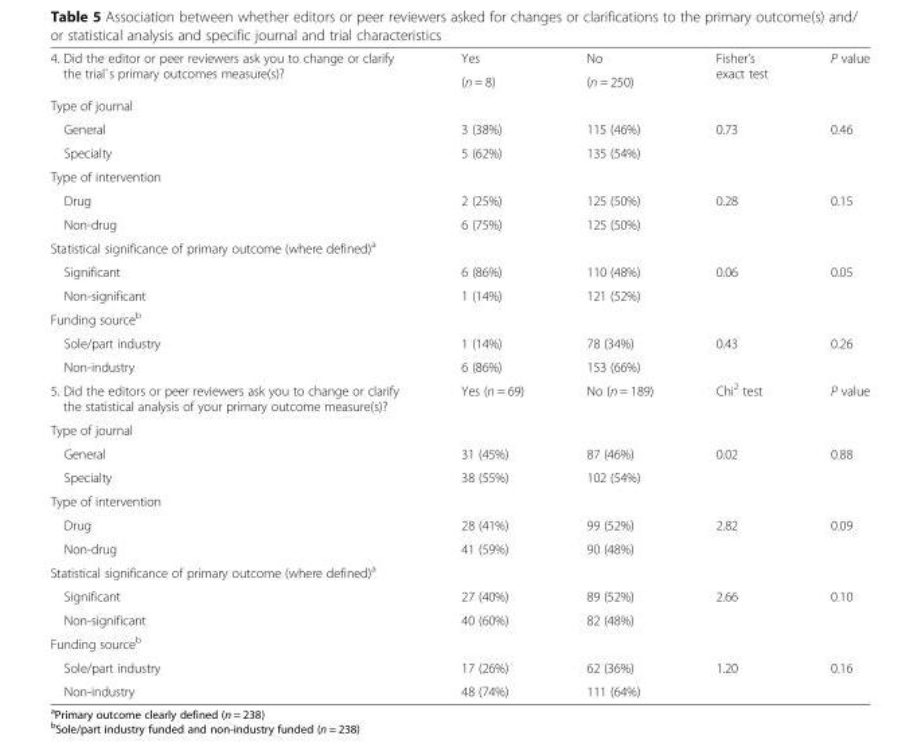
<table><tbody><tr><td rowspan="2">4. Did the editor or peer reviewers ask you to change or clarify the trial`s primary outcomes measure(s)?</td><td>Yes</td><td>No</td><td rowspan="2">Fisher’s exact test</td><td rowspan="2">P value</td></tr><tr><td>(n = 8)</td><td>(n = 250)</td></tr><tr><td colspan="5">Type of journal</td></tr><tr><td>General</td><td>3 (38%)</td><td>115 (46%)</td><td rowspan="2">0.73</td><td rowspan="2">0.46</td></tr><tr><td>Specialty</td><td>5 (62%)</td><td>135 (54%)</td></tr><tr><td colspan="5">Type of intervention</td></tr><tr><td>Drug</td><td>2 (25%)</td><td>125 (50%)</td><td rowspan="2">0.28</td><td rowspan="2">0.15</td></tr><tr><td>Non-drug</td><td>6 (75%)</td><td>125 (50%)</td></tr><tr><td colspan="5">Statistical significance of primary outcome (where defined)<sup>a</sup></td></tr><tr><td>Significant</td><td>6 (86%)</td><td>110 (48%)</td><td rowspan="2">0.06</td><td rowspan="2">0.05</td></tr><tr><td>Non-significant</td><td>1 (14%)</td><td>121 (52%)</td></tr><tr><td colspan="5">Funding source<sup>b</sup></td></tr><tr><td>Sole/part industry</td><td>1 (14%)</td><td>78 (34%)</td><td rowspan="2">0.43</td><td rowspan="2">0.26</td></tr><tr><td>Non-industry</td><td>6 (86%)</td><td>153 (66%)</td></tr><tr><td>5. Did the editors or peer reviewers ask you to change or clarify the statistical analysis of your primary outcome measure(s)?</td><td>Yes (n = 69)</td><td>No (n = 189)</td><td>Chi<sup>2</sup> test</td><td>P value</td></tr><tr><td colspan="5">Type of journal</td></tr><tr><td>General</td><td>31 (45%)</td><td>87 (46%)</td><td rowspan="2">0.02</td><td rowspan="2">0.88</td></tr><tr><td>Specialty</td><td>38 (55%)</td><td>102 (54%)</td></tr><tr><td colspan="5">Type of intervention</td></tr><tr><td>Drug</td><td>28 (41%)</td><td>99 (52%)</td><td rowspan="2">2.82</td><td rowspan="2">0.09</td></tr><tr><td>Non-drug</td><td>41 (59%)</td><td>90 (48%)</td></tr><tr><td colspan="5">Statistical significance of primary outcome (where defined)<sup>a</sup></td></tr><tr><td>Significant</td><td>27 (40%)</td><td>89 (52%)</td><td rowspan="2">2.66</td><td rowspan="2">0.10</td></tr><tr><td>Non-significant</td><td>40 (60%)</td><td>82 (48%)</td></tr><tr><td colspan="5">Funding source<sup>b</sup></td></tr><tr><td>Sole/part industry</td><td>17 (26%)</td><td>62 (36%)</td><td rowspan="2">1.20</td><td rowspan="2">0.16</td></tr><tr><td>Non-industry</td><td>48 (74%)</td><td>111 (64%)</td></tr></tbody></table>